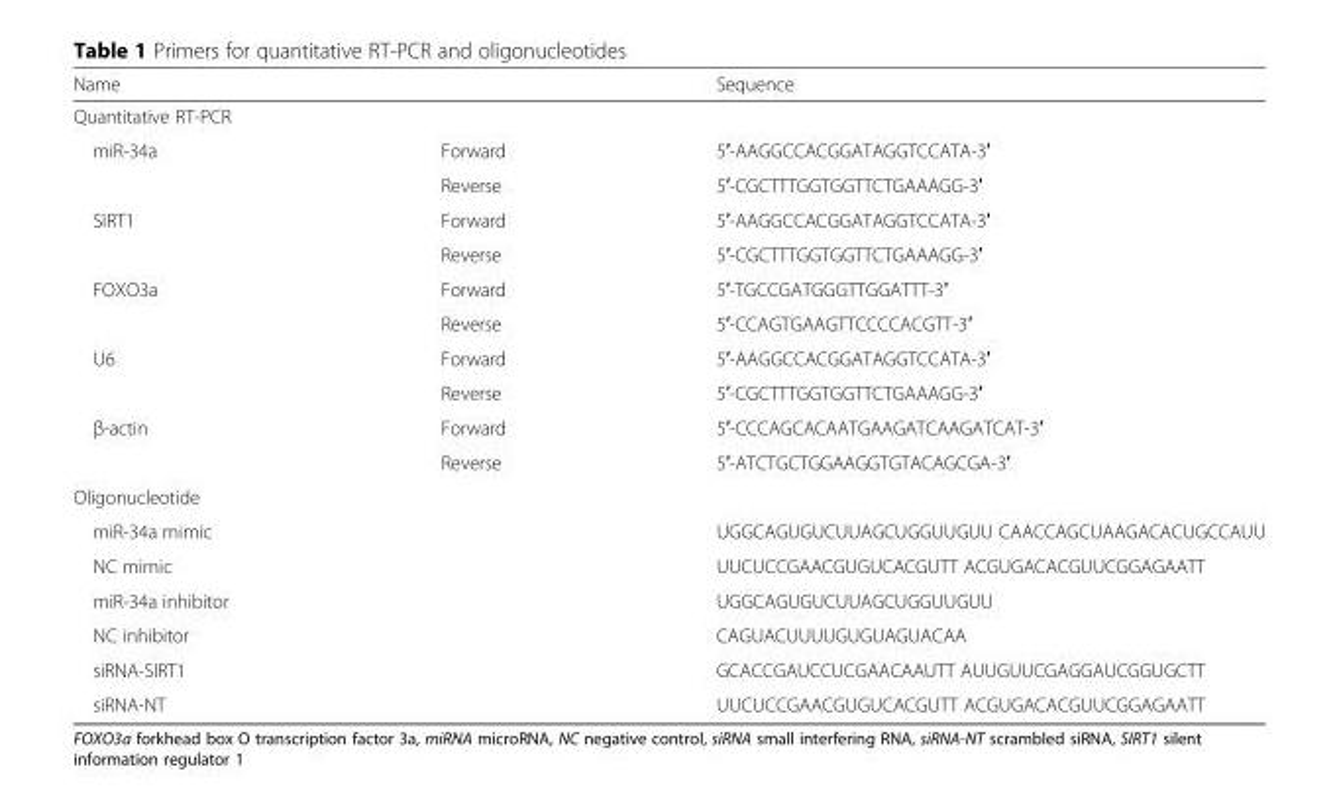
<table><thead><tr><td>Name</td><td></td><td>Sequence</td></tr></thead><tbody><tr><td colspan="3">Quantitative RT-PCR</td></tr><tr><td rowspan="2">miR-34a</td><td>Forward</td><td>5′-AAGGCCACGGATAGGTCCATA-3′</td></tr><tr><td>Reverse</td><td>5′-CGCTTTGGTGGTTCTGAAAGG-3′</td></tr><tr><td rowspan="2">SIRT1</td><td>Forward</td><td>5′-AAGGCCACGGATAGGTCCATA-3′</td></tr><tr><td>Reverse</td><td>5′-CGCTTTGGTGGTTCTGAAAGG-3′</td></tr><tr><td rowspan="2">FOXO3a</td><td>Forward</td><td>5′-TGCCGATGGGTTGGATTT-3′</td></tr><tr><td>Reverse</td><td>5′-CCAGTGAAGTTCCCCACGTT-3′</td></tr><tr><td rowspan="2">U6</td><td>Forward</td><td>5′-AAGGCCACGGATAGGTCCATA-3′</td></tr><tr><td>Reverse</td><td>5′-CGCTTTGGTGGTTCTGAAAGG-3′</td></tr><tr><td rowspan="2">β-actin</td><td>Forward</td><td>5′-CCCAGCACAATGAAGATCAAGATCAT-3′</td></tr><tr><td>Reverse</td><td>5′-ATCTGCTGGAAGGTGTACAGCGA-3′</td></tr><tr><td colspan="3">Oligonucleotide</td></tr><tr><td>miR-34a mimic</td><td></td><td>UGGCAGUGUCUUAGCUGGUUGUU CAACCAGCUAAGACACUGCCAUU</td></tr><tr><td>NC mimic</td><td></td><td>UUCUCCGAACGUGUCACGUTT ACGUGACACGUUCGGAGAATT</td></tr><tr><td>miR-34a inhibitor</td><td></td><td>UGGCAGUGUCUUAGCUGGUUGUU</td></tr><tr><td>NC inhibitor</td><td></td><td>CAGUACUUUUGUGUAGUACAA</td></tr><tr><td>siRNA-SIRT1</td><td></td><td>GCACCGAUCCUCGAACAAUTT AUUGUUCGAGGAUCGGUGCTT</td></tr><tr><td>siRNA-NT</td><td></td><td>UUCUCCGAACGUGUCACGUTT ACGUGACACGUUCGGAGAATT</td></tr></tbody></table>